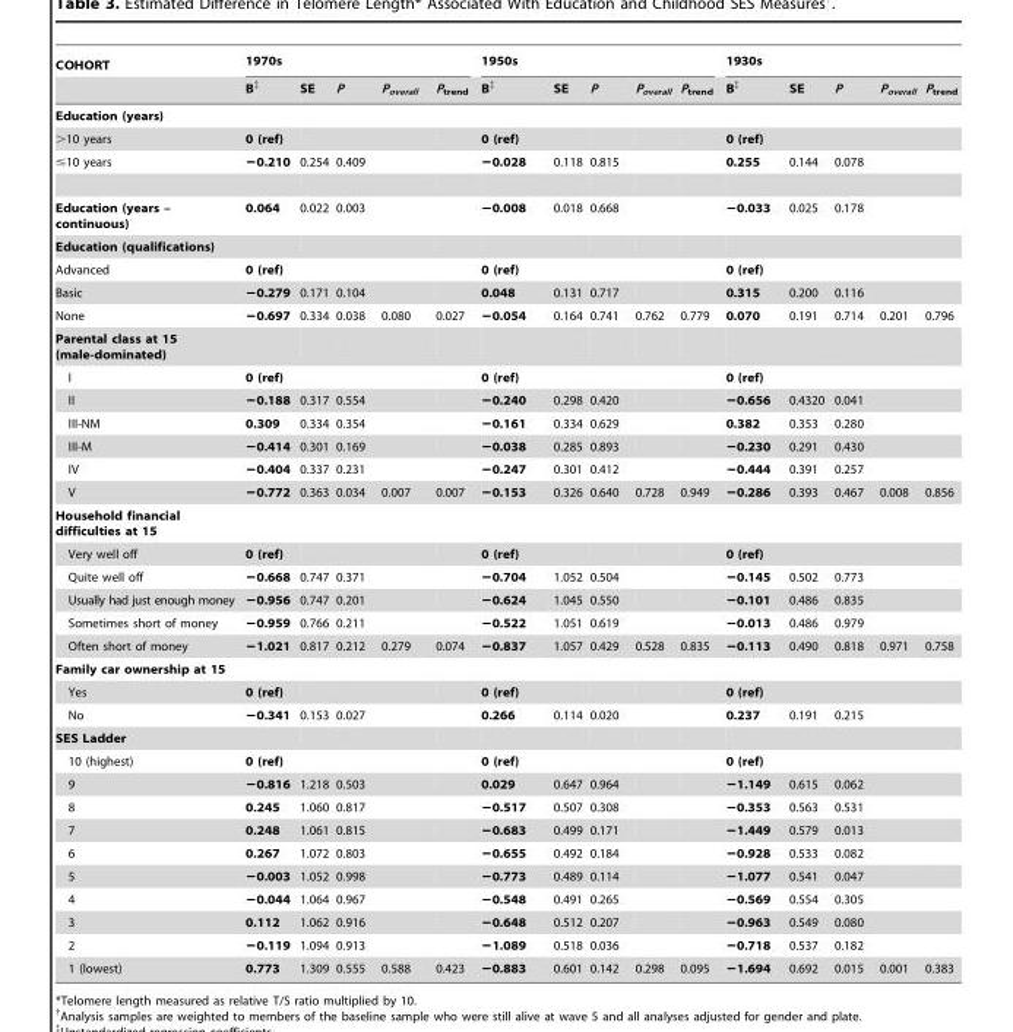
<table><thead><tr><td rowspan="2">COHORT</td><td colspan="5">1970s</td><td colspan="5">1950s</td><td colspan="5">1930s</td></tr><tr><td>B‡</td><td>SE</td><td>P</td><td>P<sub>overall</sub></td><td>P<sub>trend</sub></td><td>B‡</td><td>SE</td><td>P</td><td>P<sub>overall</sub></td><td>P<sub>trend</sub></td><td>B‡</td><td>SE</td><td>P</td><td>P<sub>overall</sub></td><td>P<sub>trend</sub></td></tr></thead><tbody><tr><td colspan="16">Education (years)</td></tr><tr><td>&gt;10 years</td><td>0 (ref)</td><td></td><td></td><td></td><td></td><td>0 (ref)</td><td></td><td></td><td></td><td></td><td>0 (ref)</td><td></td><td></td><td></td><td></td></tr><tr><td>≤10 years</td><td>−0.210</td><td>0.254</td><td>0.409</td><td></td><td></td><td>−0.028</td><td>0.118</td><td>0.815</td><td></td><td></td><td>0.255</td><td>0.144</td><td>0.078</td><td></td><td></td></tr><tr><td>Education (years – continuous)</td><td>0.064</td><td>0.022</td><td>0.003</td><td></td><td></td><td>−0.008</td><td>0.018</td><td>0.668</td><td></td><td></td><td>−0.033</td><td>0.025</td><td>0.178</td><td></td><td></td></tr><tr><td colspan="16">Education (qualifications)</td></tr><tr><td>Advanced</td><td>0 (ref)</td><td></td><td></td><td></td><td></td><td>0 (ref)</td><td></td><td></td><td></td><td></td><td>0 (ref)</td><td></td><td></td><td></td><td></td></tr><tr><td>Basic</td><td>−0.279</td><td>0.171</td><td>0.104</td><td></td><td></td><td>0.048</td><td>0.131</td><td>0.717</td><td></td><td></td><td>0.315</td><td>0.200</td><td>0.116</td><td></td><td></td></tr><tr><td>None</td><td>−0.697</td><td>0.334</td><td>0.038</td><td>0.080</td><td>0.027</td><td>−0.054</td><td>0.164</td><td>0.741</td><td>0.762</td><td>0.779</td><td>0.070</td><td>0.191</td><td>0.714</td><td>0.201</td><td>0.796</td></tr><tr><td colspan="16">Parental class at 15 (male-dominated)</td></tr><tr><td>I</td><td>0 (ref)</td><td></td><td></td><td></td><td></td><td>0 (ref)</td><td></td><td></td><td></td><td></td><td>0 (ref)</td><td></td><td></td><td></td><td></td></tr><tr><td>II</td><td>−0.188</td><td>0.317</td><td>0.554</td><td></td><td></td><td>−0.240</td><td>0.298</td><td>0.420</td><td></td><td></td><td>−0.656</td><td>0.4320</td><td>0.041</td><td></td><td></td></tr><tr><td>III-NM</td><td>0.309</td><td>0.334</td><td>0.354</td><td></td><td></td><td>−0.161</td><td>0.334</td><td>0.629</td><td></td><td></td><td>0.382</td><td>0.353</td><td>0.280</td><td></td><td></td></tr><tr><td>III-M</td><td>−0.414</td><td>0.301</td><td>0.169</td><td></td><td></td><td>−0.038</td><td>0.285</td><td>0.893</td><td></td><td></td><td>−0.230</td><td>0.291</td><td>0.430</td><td></td><td></td></tr><tr><td>IV</td><td>−0.404</td><td>0.337</td><td>0.231</td><td></td><td></td><td>−0.247</td><td>0.301</td><td>0.412</td><td></td><td></td><td>−0.444</td><td>0.391</td><td>0.257</td><td></td><td></td></tr><tr><td>V</td><td>−0.772</td><td>0.363</td><td>0.034</td><td>0.007</td><td>0.007</td><td>−0.153</td><td>0.326</td><td>0.640</td><td>0.728</td><td>0.949</td><td>−0.286</td><td>0.393</td><td>0.467</td><td>0.008</td><td>0.856</td></tr><tr><td colspan="16">Household financial difficulties at 15</td></tr><tr><td>Very well off</td><td>0 (ref)</td><td></td><td></td><td></td><td></td><td>0 (ref)</td><td></td><td></td><td></td><td></td><td>0 (ref)</td><td></td><td></td><td></td><td></td></tr><tr><td>Quite well off</td><td>−0.668</td><td>0.747</td><td>0.371</td><td></td><td></td><td>−0.704</td><td>1.052</td><td>0.504</td><td></td><td></td><td>−0.145</td><td>0.502</td><td>0.773</td><td></td><td></td></tr><tr><td>Usually had just enough money</td><td>−0.956</td><td>0.747</td><td>0.201</td><td></td><td></td><td>−0.624</td><td>1.045</td><td>0.550</td><td></td><td></td><td>−0.101</td><td>0.486</td><td>0.835</td><td></td><td></td></tr><tr><td>Sometimes short of money</td><td>−0.959</td><td>0.766</td><td>0.211</td><td></td><td></td><td>−0.522</td><td>1.051</td><td>0.619</td><td></td><td></td><td>−0.013</td><td>0.486</td><td>0.979</td><td></td><td></td></tr><tr><td>Often short of money</td><td>−1.021</td><td>0.817</td><td>0.212</td><td>0.279</td><td>0.074</td><td>−0.837</td><td>1.057</td><td>0.429</td><td>0.528</td><td>0.835</td><td>−0.113</td><td>0.490</td><td>0.818</td><td>0.971</td><td>0.758</td></tr><tr><td colspan="16">Family car ownership at 15</td></tr><tr><td>Yes</td><td>0 (ref)</td><td></td><td></td><td></td><td></td><td>0 (ref)</td><td></td><td></td><td></td><td></td><td>0 (ref)</td><td></td><td></td><td></td><td></td></tr><tr><td>No</td><td>−0.341</td><td>0.153</td><td>0.027</td><td></td><td></td><td>0.266</td><td>0.114</td><td>0.020</td><td></td><td></td><td>0.237</td><td>0.191</td><td>0.215</td><td></td><td></td></tr><tr><td colspan="16">SES Ladder</td></tr><tr><td>10 (highest)</td><td>0 (ref)</td><td></td><td></td><td></td><td></td><td>0 (ref)</td><td></td><td></td><td></td><td></td><td>0 (ref)</td><td></td><td></td><td></td><td></td></tr><tr><td>9</td><td>−0.816</td><td>1.218</td><td>0.503</td><td></td><td></td><td>0.029</td><td>0.647</td><td>0.964</td><td></td><td></td><td>−1.149</td><td>0.615</td><td>0.062</td><td></td><td></td></tr><tr><td>8</td><td>0.245</td><td>1.060</td><td>0.817</td><td></td><td></td><td>−0.517</td><td>0.507</td><td>0.308</td><td></td><td></td><td>−0.353</td><td>0.563</td><td>0.531</td><td></td><td></td></tr><tr><td>7</td><td>0.248</td><td>1.061</td><td>0.815</td><td></td><td></td><td>−0.683</td><td>0.499</td><td>0.171</td><td></td><td></td><td>−1.449</td><td>0.579</td><td>0.013</td><td></td><td></td></tr><tr><td>6</td><td>0.267</td><td>1.072</td><td>0.803</td><td></td><td></td><td>−0.655</td><td>0.492</td><td>0.184</td><td></td><td></td><td>−0.928</td><td>0.533</td><td>0.082</td><td></td><td></td></tr><tr><td>5</td><td>−0.003</td><td>1.052</td><td>0.998</td><td></td><td></td><td>−0.773</td><td>0.489</td><td>0.114</td><td></td><td></td><td>−1.077</td><td>0.541</td><td>0.047</td><td></td><td></td></tr><tr><td>4</td><td>−0.044</td><td>1.064</td><td>0.967</td><td></td><td></td><td>−0.548</td><td>0.491</td><td>0.265</td><td></td><td></td><td>−0.569</td><td>0.554</td><td>0.305</td><td></td><td></td></tr><tr><td>3</td><td>0.112</td><td>1.062</td><td>0.916</td><td></td><td></td><td>−0.648</td><td>0.512</td><td>0.207</td><td></td><td></td><td>−0.963</td><td>0.549</td><td>0.080</td><td></td><td></td></tr><tr><td>2</td><td>−0.119</td><td>1.094</td><td>0.913</td><td></td><td></td><td>−1.089</td><td>0.518</td><td>0.036</td><td></td><td></td><td>−0.718</td><td>0.537</td><td>0.182</td><td></td><td></td></tr><tr><td>1 (lowest)</td><td>0.773</td><td>1.309</td><td>0.555</td><td>0.588</td><td>0.423</td><td>−0.883</td><td>0.601</td><td>0.142</td><td>0.298</td><td>0.095</td><td>−1.694</td><td>0.692</td><td>0.015</td><td>0.001</td><td>0.383</td></tr></tbody></table>